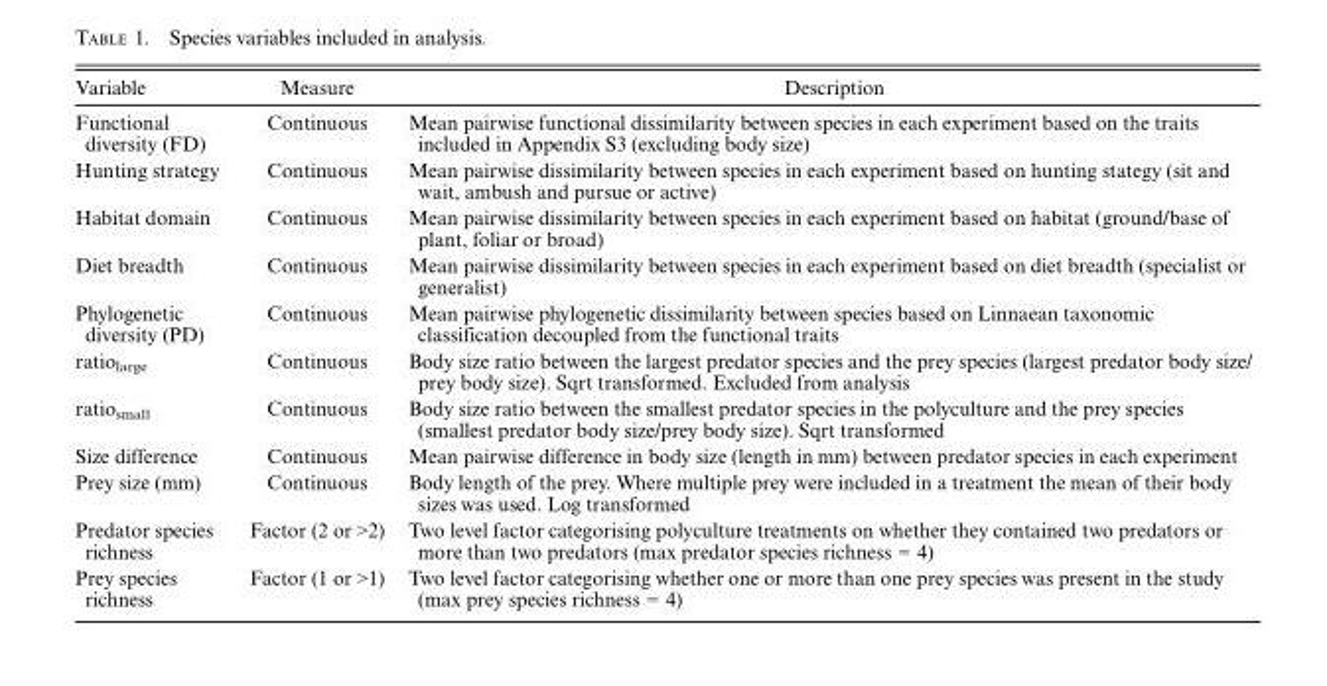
<table><thead><tr><td>Variable</td><td>Measure</td><td>Description</td></tr></thead><tbody><tr><td>Functional diversity (FD)</td><td>Continuous</td><td>Mean pairwise functional dissimilarity between species in each experiment based on the traits included in Appendix S3 (excluding body size)</td></tr><tr><td>Hunting strategy</td><td>Continuous</td><td>Mean pairwise dissimilarity between species in each experiment based on hunting stategy (sit and wait, ambush and pursue or active)</td></tr><tr><td>Habitat domain</td><td>Continuous</td><td>Mean pairwise dissimilarity between species in each experiment based on habitat (ground/base of plant, foliar or broad)</td></tr><tr><td>Diet breadth</td><td>Continuous</td><td>Mean pairwise dissimilarity between species in each experiment based on diet breadth (specialist or generalist)</td></tr><tr><td>Phylogenetic diversity (PD)</td><td>Continuous</td><td>Mean pairwise phylogenetic dissimilarity between species based on Linnaean taxonomic classification decoupled from the functional traits</td></tr><tr><td>ratio<sub>large</sub></td><td>Continuous</td><td>Body size ratio between the largest predator species and the prey species (largest predator body size/ prey body size). Sqrt transformed. Excluded from analysis</td></tr><tr><td>ratio<sub>small</sub></td><td>Continuous</td><td>Body size ratio between the smallest predator species in the polyculture and the prey species (smallest predator body size/prey body size). Sqrt transformed</td></tr><tr><td>Size difference</td><td>Continuous</td><td>Mean pairwise difference in body size (length in mm) between predator species in each experiment</td></tr><tr><td>Prey size (mm)</td><td>Continuous</td><td>Body length of the prey. Where multiple prey were included in a treatment the mean of their body sizes was used. Log transformed</td></tr><tr><td>Predator species richness</td><td>Factor (2 or &gt;2)</td><td>Two level factor categorising polyculture treatments on whether they contained two predators or more than two predators (max predator species richness = 4)</td></tr><tr><td>Prey species richness</td><td>Factor (1 or &gt;1)</td><td>Two level factor categorising whether one or more than one prey species was present in the study (max prey species richness = 4)</td></tr></tbody></table>